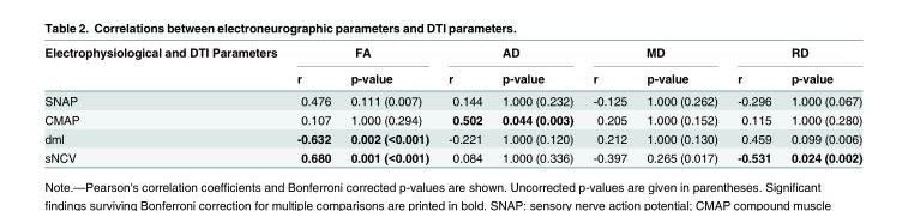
<table><thead><tr><td rowspan="2">Electrophysiological and DTI Parameters</td><td colspan="2">FA</td><td colspan="2">AD</td><td colspan="2">MD</td><td colspan="2">RD</td></tr><tr><td>r</td><td>p-value</td><td>r</td><td>p-value</td><td>r</td><td>p-value</td><td>r</td><td>p-value</td></tr></thead><tbody><tr><td>SNAP</td><td>0.476</td><td>0.111 (0.007)</td><td>0.144</td><td>1.000 (0.232)</td><td>-0.125</td><td>1.000 (0.262)</td><td>-0.296</td><td>1.000 (0.067)</td></tr><tr><td>CMAP</td><td>0.107</td><td>1.000 (0.294)</td><td>0.502</td><td>0.044 (0.003)</td><td>0.205</td><td>1.000 (0.152)</td><td>0.115</td><td>1.000 (0.280)</td></tr><tr><td>dml</td><td>-0.632</td><td>0.002 (&lt;0.001)</td><td>-0.221</td><td>1.000 (0.120)</td><td>0.212</td><td>1.000 (0.130)</td><td>0.459</td><td>0.099 (0.006)</td></tr><tr><td>sNCV</td><td>0.680</td><td>0.001 (&lt;0.001)</td><td>0.084</td><td>1.000 (0.336)</td><td>-0.397</td><td>0.265 (0.017)</td><td>-0.531</td><td>0.024 (0.002)</td></tr></tbody></table>